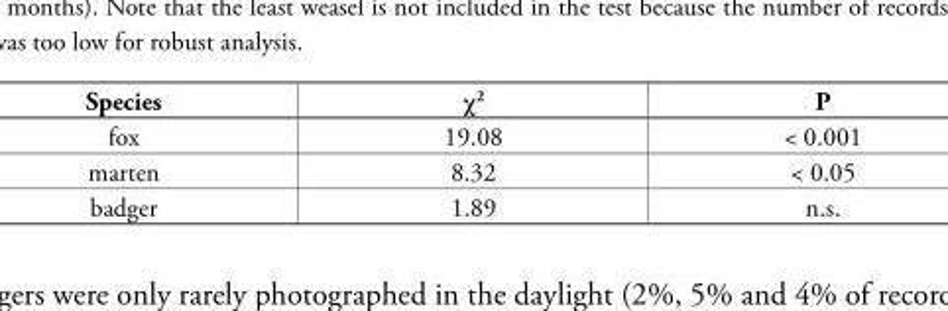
<table><thead><tr><td>Species</td><td>χ<sup>2</sup></td><td>P</td></tr></thead><tbody><tr><td>fox</td><td>19.08</td><td>&lt; 0.001</td></tr><tr><td>marten</td><td>8.32</td><td>&lt; 0.05</td></tr><tr><td>badger</td><td>1.89</td><td>n.s.</td></tr></tbody></table>